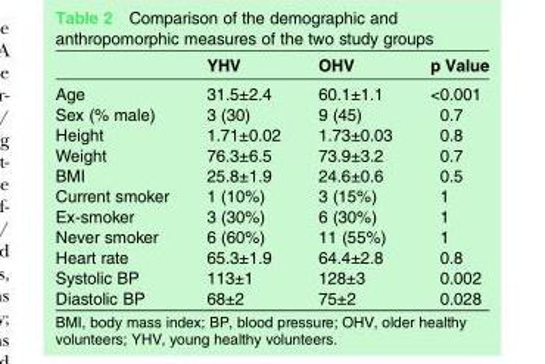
<table><thead><tr><td></td><td>YHV</td><td>OHV</td><td>p Value</td></tr></thead><tbody><tr><td>Age</td><td>31.5±2.4</td><td>60.1±1.1</td><td>&lt;0.001</td></tr><tr><td>Sex (% male)</td><td>3 (30)</td><td>9 (45)</td><td>0.7</td></tr><tr><td>Height</td><td>1.71±0.02</td><td>1.73±0.03</td><td>0.8</td></tr><tr><td>Weight</td><td>76.3±6.5</td><td>73.9±3.2</td><td>0.7</td></tr><tr><td>BMI</td><td>25.8±1.9</td><td>24.6±0.6</td><td>0.5</td></tr><tr><td>Current smoker</td><td>1 (10%)</td><td>3 (15%)</td><td>1</td></tr><tr><td>Ex-smoker</td><td>3 (30%)</td><td>6 (30%)</td><td>1</td></tr><tr><td>Never smoker</td><td>6 (60%)</td><td>11 (55%)</td><td>1</td></tr><tr><td>Heart rate</td><td>65.3±1.9</td><td>64.4±2.8</td><td>0.8</td></tr><tr><td>Systolic BP</td><td>113±1</td><td>128±3</td><td>0.002</td></tr><tr><td>Diastolic BP</td><td>68±2</td><td>75±2</td><td>0.028</td></tr></tbody></table>